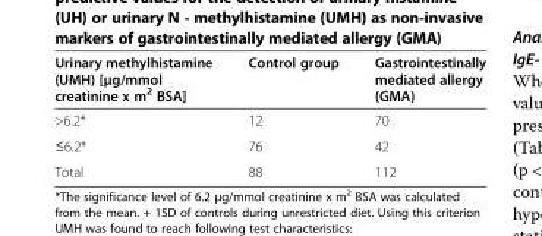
<table><thead><tr><td>Urinary methylhistamine (UMH) [μg/mmol creatinine x m<sup>2</sup> BSA]</td><td>Control group</td><td>Gastrointestinally mediated allergy (GMA)</td></tr></thead><tbody><tr><td>&gt;6.2*</td><td>12</td><td>70</td></tr><tr><td>≤6.2*</td><td>76</td><td>42</td></tr><tr><td>Total</td><td>88</td><td>112</td></tr></tbody></table>